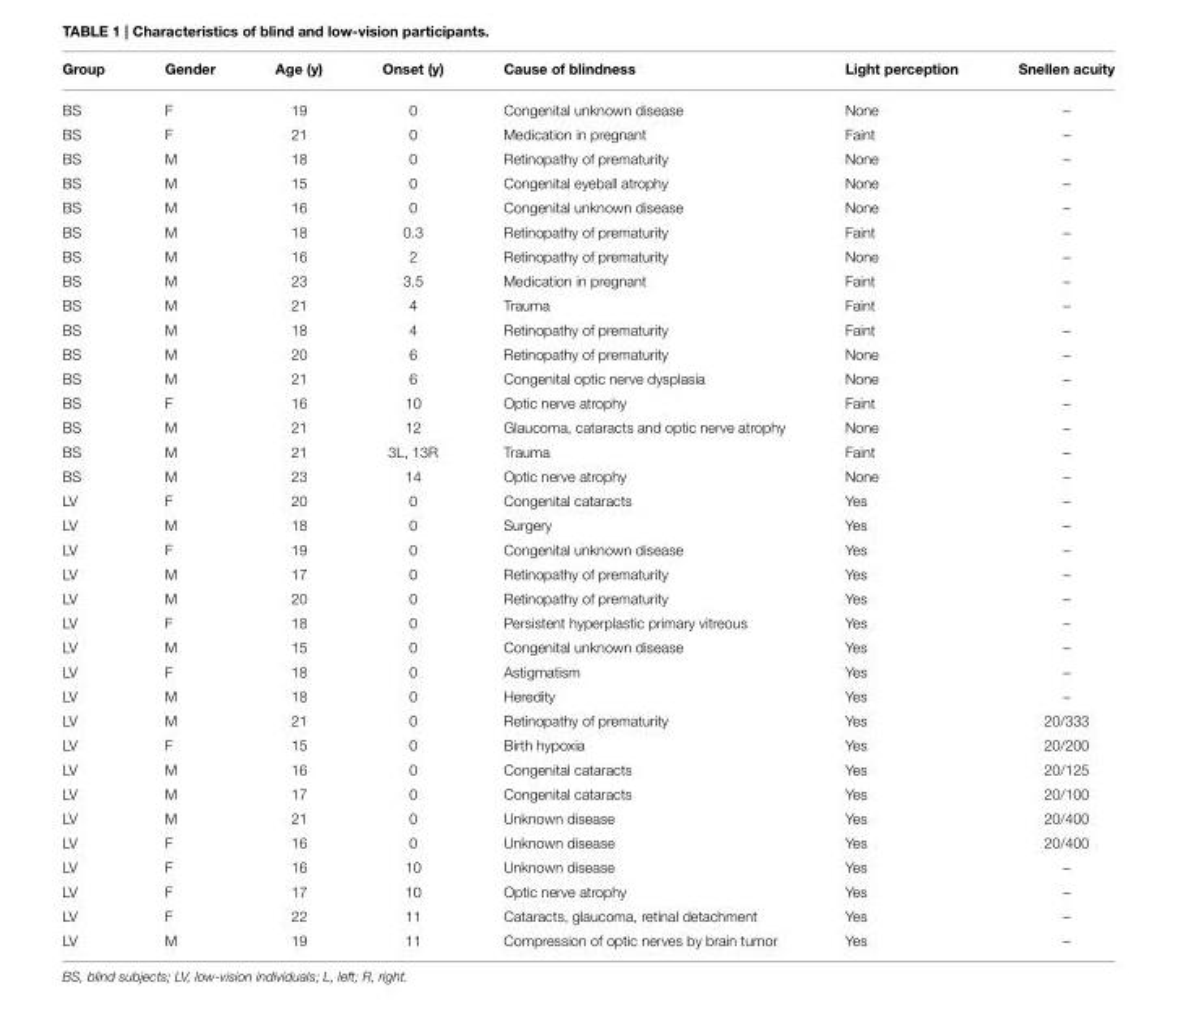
<table><thead><tr><td>Group</td><td>Gender</td><td>Age (y)</td><td>Onset (y)</td><td>Cause of blindness</td><td>Light perception</td><td>Snellen acuity</td></tr></thead><tbody><tr><td>BS</td><td>F</td><td>19</td><td>0</td><td>Congenital unknown disease</td><td>None</td><td>–</td></tr><tr><td>BS</td><td>F</td><td>21</td><td>0</td><td>Medication in pregnant</td><td>Faint</td><td>–</td></tr><tr><td>BS</td><td>M</td><td>18</td><td>0</td><td>Retinopathy of prematurity</td><td>None</td><td>–</td></tr><tr><td>BS</td><td>M</td><td>15</td><td>0</td><td>Congenital eyeball atrophy</td><td>None</td><td>–</td></tr><tr><td>BS</td><td>M</td><td>16</td><td>0</td><td>Congenital unknown disease</td><td>None</td><td>–</td></tr><tr><td>BS</td><td>M</td><td>18</td><td>0.3</td><td>Retinopathy of prematurity</td><td>Faint</td><td>–</td></tr><tr><td>BS</td><td>M</td><td>16</td><td>2</td><td>Retinopathy of prematurity</td><td>None</td><td>–</td></tr><tr><td>BS</td><td>M</td><td>23</td><td>3.5</td><td>Medication in pregnant</td><td>Faint</td><td>–</td></tr><tr><td>BS</td><td>M</td><td>21</td><td>4</td><td>Trauma</td><td>Faint</td><td>–</td></tr><tr><td>BS</td><td>M</td><td>18</td><td>4</td><td>Retinopathy of prematurity</td><td>Faint</td><td>–</td></tr><tr><td>BS</td><td>M</td><td>20</td><td>6</td><td>Retinopathy of prematurity</td><td>None</td><td>–</td></tr><tr><td>BS</td><td>M</td><td>21</td><td>6</td><td>Congenital optic nerve dysplasia</td><td>None</td><td>–</td></tr><tr><td>BS</td><td>F</td><td>16</td><td>10</td><td>Optic nerve atrophy</td><td>Faint</td><td>–</td></tr><tr><td>BS</td><td>M</td><td>21</td><td>12</td><td>Glaucoma, cataracts and optic nerve atrophy</td><td>None</td><td>–</td></tr><tr><td>BS</td><td>M</td><td>21</td><td>3L, 13R</td><td>Trauma</td><td>Faint</td><td>–</td></tr><tr><td>BS</td><td>M</td><td>23</td><td>14</td><td>Optic nerve atrophy</td><td>None</td><td>–</td></tr><tr><td>LV</td><td>F</td><td>20</td><td>0</td><td>Congenital cataracts</td><td>Yes</td><td>–</td></tr><tr><td>LV</td><td>M</td><td>18</td><td>0</td><td>Surgery</td><td>Yes</td><td>–</td></tr><tr><td>LV</td><td>F</td><td>19</td><td>0</td><td>Congenital unknown disease</td><td>Yes</td><td>–</td></tr><tr><td>LV</td><td>M</td><td>17</td><td>0</td><td>Retinopathy of prematurity</td><td>Yes</td><td>–</td></tr><tr><td>LV</td><td>M</td><td>20</td><td>0</td><td>Retinopathy of prematurity</td><td>Yes</td><td>–</td></tr><tr><td>LV</td><td>F</td><td>18</td><td>0</td><td>Persistent hyperplastic primary vitreous</td><td>Yes</td><td>–</td></tr><tr><td>LV</td><td>M</td><td>15</td><td>0</td><td>Congenital unknown disease</td><td>Yes</td><td>–</td></tr><tr><td>LV</td><td>F</td><td>18</td><td>0</td><td>Astigmatism</td><td>Yes</td><td>–</td></tr><tr><td>LV</td><td>M</td><td>18</td><td>0</td><td>Heredity</td><td>Yes</td><td>–</td></tr><tr><td>LV</td><td>M</td><td>21</td><td>0</td><td>Retinopathy of prematurity</td><td>Yes</td><td>20/333</td></tr><tr><td>LV</td><td>F</td><td>15</td><td>0</td><td>Birth hypoxia</td><td>Yes</td><td>20/200</td></tr><tr><td>LV</td><td>M</td><td>16</td><td>0</td><td>Congenital cataracts</td><td>Yes</td><td>20/125</td></tr><tr><td>LV</td><td>M</td><td>17</td><td>0</td><td>Congenital cataracts</td><td>Yes</td><td>20/100</td></tr><tr><td>LV</td><td>M</td><td>21</td><td>0</td><td>Unknown disease</td><td>Yes</td><td>20/400</td></tr><tr><td>LV</td><td>F</td><td>16</td><td>0</td><td>Unknown disease</td><td>Yes</td><td>20/400</td></tr><tr><td>LV</td><td>F</td><td>16</td><td>10</td><td>Unknown disease</td><td>Yes</td><td>–</td></tr><tr><td>LV</td><td>F</td><td>17</td><td>10</td><td>Optic nerve atrophy</td><td>Yes</td><td>–</td></tr><tr><td>LV</td><td>F</td><td>22</td><td>11</td><td>Cataracts, glaucoma, retinal detachment</td><td>Yes</td><td>–</td></tr><tr><td>LV</td><td>M</td><td>19</td><td>11</td><td>Compression of optic nerves by brain tumor</td><td>Yes</td><td>–</td></tr></tbody></table>